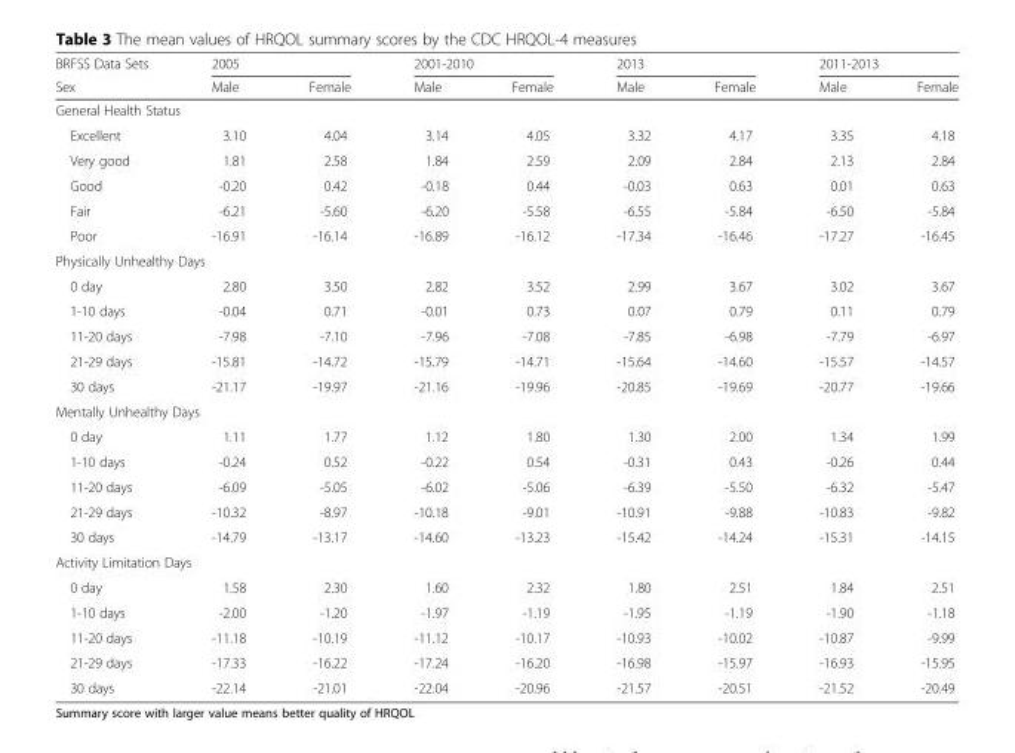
<table><thead><tr><td rowspan="2">BRFSS Data Sets Sex</td><td colspan="2">2005</td><td colspan="2">2001-2010</td><td colspan="2">2013</td><td colspan="2">2011-2013</td></tr><tr><td>Male</td><td>Female</td><td>Male</td><td>Female</td><td>Male</td><td>Female</td><td>Male</td><td>Female</td></tr></thead><tbody><tr><td colspan="9">General Health Status</td></tr><tr><td>Excellent</td><td>3.10</td><td>4.04</td><td>3.14</td><td>4.05</td><td>3.32</td><td>4.17</td><td>3.35</td><td>4.18</td></tr><tr><td>Very good</td><td>1.81</td><td>2.58</td><td>1.84</td><td>2.59</td><td>2.09</td><td>2.84</td><td>2.13</td><td>2.84</td></tr><tr><td>Good</td><td>-0.20</td><td>0.42</td><td>-0.18</td><td>0.44</td><td>-0.03</td><td>0.63</td><td>0.01</td><td>0.63</td></tr><tr><td>Fair</td><td>-6.21</td><td>-5.60</td><td>-6.20</td><td>-5.58</td><td>-6.55</td><td>-5.84</td><td>-6.50</td><td>-5.84</td></tr><tr><td>Poor</td><td>-16.91</td><td>-16.14</td><td>-16.89</td><td>-16.12</td><td>-17.34</td><td>-16.46</td><td>-17.27</td><td>-16.45</td></tr><tr><td colspan="9">Physically Unhealthy Days</td></tr><tr><td>0 day</td><td>2.80</td><td>3.50</td><td>2.82</td><td>3.52</td><td>2.99</td><td>3.67</td><td>3.02</td><td>3.67</td></tr><tr><td>1-10 days</td><td>-0.04</td><td>0.71</td><td>-0.01</td><td>0.73</td><td>0.07</td><td>0.79</td><td>0.11</td><td>0.79</td></tr><tr><td>11-20 days</td><td>-7.98</td><td>-7.10</td><td>-7.96</td><td>-7.08</td><td>-7.85</td><td>-6.98</td><td>-7.79</td><td>-6.97</td></tr><tr><td>21-29 days</td><td>-15.81</td><td>-14.72</td><td>-15.79</td><td>-14.71</td><td>-15.64</td><td>-14.60</td><td>-15.57</td><td>-14.57</td></tr><tr><td>30 days</td><td>-21.17</td><td>-19.97</td><td>-21.16</td><td>-19.96</td><td>-20.85</td><td>-19.69</td><td>-20.77</td><td>-19.66</td></tr><tr><td colspan="9">Mentally Unhealthy Days</td></tr><tr><td>0 day</td><td>1.11</td><td>1.77</td><td>1.12</td><td>1.80</td><td>1.30</td><td>2.00</td><td>1.34</td><td>1.99</td></tr><tr><td>1-10 days</td><td>-0.24</td><td>0.52</td><td>-0.22</td><td>0.54</td><td>-0.31</td><td>0.43</td><td>-0.26</td><td>0.44</td></tr><tr><td>11-20 days</td><td>-6.09</td><td>-5.05</td><td>-6.02</td><td>-5.06</td><td>-6.39</td><td>-5.50</td><td>-6.32</td><td>-5.47</td></tr><tr><td>21-29 days</td><td>-10.32</td><td>-8.97</td><td>-10.18</td><td>-9.01</td><td>-10.91</td><td>-9.88</td><td>-10.83</td><td>-9.82</td></tr><tr><td>30 days</td><td>-14.79</td><td>-13.17</td><td>-14.60</td><td>-13.23</td><td>-15.42</td><td>-14.24</td><td>-15.31</td><td>-14.15</td></tr><tr><td colspan="9">Activity Limitation Days</td></tr><tr><td>0 day</td><td>1.58</td><td>2.30</td><td>1.60</td><td>2.32</td><td>1.80</td><td>2.51</td><td>1.84</td><td>2.51</td></tr><tr><td>1-10 days</td><td>-2.00</td><td>-1.20</td><td>-1.97</td><td>-1.19</td><td>-1.95</td><td>-1.19</td><td>-1.90</td><td>-1.18</td></tr><tr><td>11-20 days</td><td>-11.18</td><td>-10.19</td><td>-11.12</td><td>-10.17</td><td>-10.93</td><td>-10.02</td><td>-10.87</td><td>-9.99</td></tr><tr><td>21-29 days</td><td>-17.33</td><td>-16.22</td><td>-17.24</td><td>-16.20</td><td>-16.98</td><td>-15.97</td><td>-16.93</td><td>-15.95</td></tr><tr><td>30 days</td><td>-22.14</td><td>-21.01</td><td>-22.04</td><td>-20.96</td><td>-21.57</td><td>-20.51</td><td>-21.52</td><td>-20.49</td></tr></tbody></table>